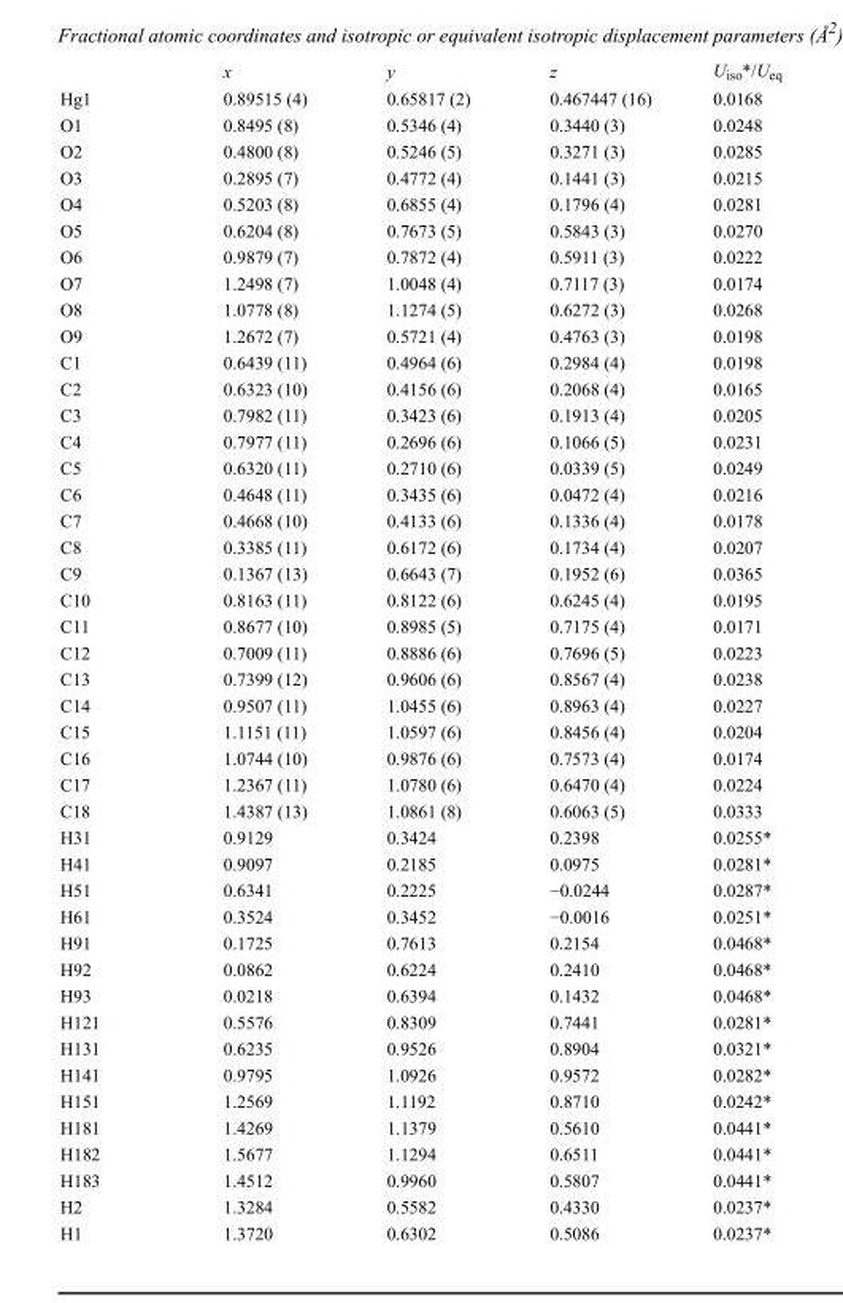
<table><thead><tr><td></td><td>x</td><td>y</td><td>z</td><td>U<sub>iso</sub>*/U<sub>eq</sub></td></tr></thead><tbody><tr><td>Hg1</td><td>0.89515 (4)</td><td>0.65817 (2)</td><td>0.467447 (16)</td><td>0.0168</td></tr><tr><td>O1</td><td>0.8495 (8)</td><td>0.5346 (4)</td><td>0.3440 (3)</td><td>0.0248</td></tr><tr><td>O2</td><td>0.4800 (8)</td><td>0.5246 (5)</td><td>0.3271 (3)</td><td>0.0285</td></tr><tr><td>O3</td><td>0.2895 (7)</td><td>0.4772 (4)</td><td>0.1441 (3)</td><td>0.0215</td></tr><tr><td>O4</td><td>0.5203 (8)</td><td>0.6855 (4)</td><td>0.1796 (4)</td><td>0.0281</td></tr><tr><td>O5</td><td>0.6204 (8)</td><td>0.7673 (5)</td><td>0.5843 (3)</td><td>0.0270</td></tr><tr><td>O6</td><td>0.9879 (7)</td><td>0.7872 (4)</td><td>0.5911 (3)</td><td>0.0222</td></tr><tr><td>O7</td><td>1.2498 (7)</td><td>1.0048 (4)</td><td>0.7117 (3)</td><td>0.0174</td></tr><tr><td>O8</td><td>1.0778 (8)</td><td>1.1274 (5)</td><td>0.6272 (3)</td><td>0.0268</td></tr><tr><td>O9</td><td>1.2672 (7)</td><td>0.5721 (4)</td><td>0.4763 (3)</td><td>0.0198</td></tr><tr><td>C1</td><td>0.6439 (11)</td><td>0.4964 (6)</td><td>0.2984 (4)</td><td>0.0198</td></tr><tr><td>C2</td><td>0.6323 (10)</td><td>0.4156 (6)</td><td>0.2068 (4)</td><td>0.0165</td></tr><tr><td>C3</td><td>0.7982 (11)</td><td>0.3423 (6)</td><td>0.1913 (4)</td><td>0.0205</td></tr><tr><td>C4</td><td>0.7977 (11)</td><td>0.2696 (6)</td><td>0.1066 (5)</td><td>0.0231</td></tr><tr><td>C5</td><td>0.6320 (11)</td><td>0.2710 (6)</td><td>0.0339 (5)</td><td>0.0249</td></tr><tr><td>C6</td><td>0.4648 (11)</td><td>0.3435 (6)</td><td>0.0472 (4)</td><td>0.0216</td></tr><tr><td>C7</td><td>0.4668 (10)</td><td>0.4133 (6)</td><td>0.1336 (4)</td><td>0.0178</td></tr><tr><td>C8</td><td>0.3385 (11)</td><td>0.6172 (6)</td><td>0.1734 (4)</td><td>0.0207</td></tr><tr><td>C9</td><td>0.1367 (13)</td><td>0.6643 (7)</td><td>0.1952 (6)</td><td>0.0365</td></tr><tr><td>C10</td><td>0.8163 (11)</td><td>0.8122 (6)</td><td>0.6245 (4)</td><td>0.0195</td></tr><tr><td>C11</td><td>0.8677 (10)</td><td>0.8985 (5)</td><td>0.7175 (4)</td><td>0.0171</td></tr><tr><td>C12</td><td>0.7009 (11)</td><td>0.8886 (6)</td><td>0.7696 (5)</td><td>0.0223</td></tr><tr><td>C13</td><td>0.7399 (12)</td><td>0.9606 (6)</td><td>0.8567 (4)</td><td>0.0238</td></tr><tr><td>C14</td><td>0.9507 (11)</td><td>1.0455 (6)</td><td>0.8963 (4)</td><td>0.0227</td></tr><tr><td>C15</td><td>1.1151 (11)</td><td>1.0597 (6)</td><td>0.8456 (4)</td><td>0.0204</td></tr><tr><td>C16</td><td>1.0744 (10)</td><td>0.9876 (6)</td><td>0.7573 (4)</td><td>0.0174</td></tr><tr><td>C17</td><td>1.2367 (11)</td><td>1.0780 (6)</td><td>0.6470 (4)</td><td>0.0224</td></tr><tr><td>C18</td><td>1.4387 (13)</td><td>1.0861 (8)</td><td>0.6063 (5)</td><td>0.0333</td></tr><tr><td>H31</td><td>0.9129</td><td>0.3424</td><td>0.2398</td><td>0.0255*</td></tr><tr><td>H41</td><td>0.9097</td><td>0.2185</td><td>0.0975</td><td>0.0281*</td></tr><tr><td>H51</td><td>0.6341</td><td>0.2225</td><td>−0.0244</td><td>0.0287*</td></tr><tr><td>H61</td><td>0.3524</td><td>0.3452</td><td>−0.0016</td><td>0.0251*</td></tr><tr><td>H91</td><td>0.1725</td><td>0.7613</td><td>0.2154</td><td>0.0468*</td></tr><tr><td>H92</td><td>0.0862</td><td>0.6224</td><td>0.2410</td><td>0.0468*</td></tr><tr><td>H93</td><td>0.0218</td><td>0.6394</td><td>0.1432</td><td>0.0468*</td></tr><tr><td>H121</td><td>0.5576</td><td>0.8309</td><td>0.7441</td><td>0.0281*</td></tr><tr><td>H131</td><td>0.6235</td><td>0.9526</td><td>0.8904</td><td>0.0321*</td></tr><tr><td>H141</td><td>0.9795</td><td>1.0926</td><td>0.9572</td><td>0.0282*</td></tr><tr><td>H151</td><td>1.2569</td><td>1.1192</td><td>0.8710</td><td>0.0242*</td></tr><tr><td>H181</td><td>1.4269</td><td>1.1379</td><td>0.5610</td><td>0.0441*</td></tr><tr><td>H182</td><td>1.5677</td><td>1.1294</td><td>0.6511</td><td>0.0441*</td></tr><tr><td>H183</td><td>1.4512</td><td>0.9960</td><td>0.5807</td><td>0.0441*</td></tr><tr><td>H2</td><td>1.3284</td><td>0.5582</td><td>0.4330</td><td>0.0237*</td></tr><tr><td>H1</td><td>1.3720</td><td>0.6302</td><td>0.5086</td><td>0.0237*</td></tr></tbody></table>